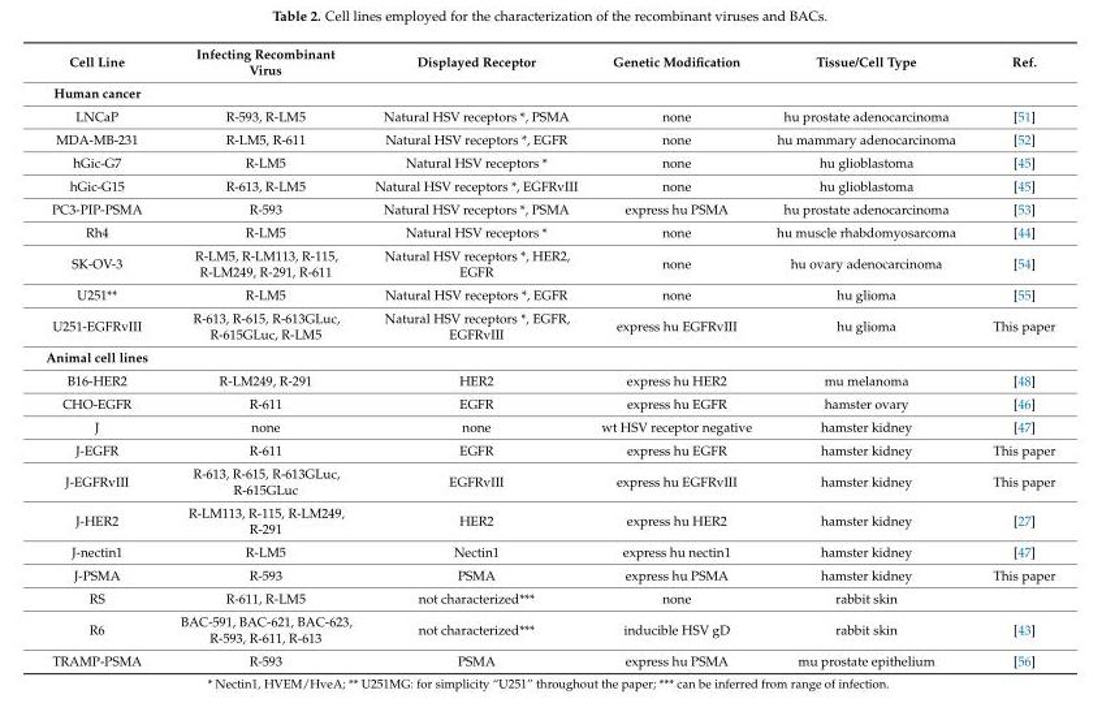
<table><thead><tr><td>Cell Line</td><td>Infecting Recombinant Virus</td><td>Displayed Receptor</td><td>Genetic Modification</td><td>Tissue/Cell Type</td><td>Ref.</td></tr></thead><tbody><tr><td colspan="6">Human cancer</td></tr><tr><td>LNCaP</td><td>R-593, R-LM5</td><td>Natural HSV receptors *, PSMA</td><td>none</td><td>hu prostate adenocarcinoma</td><td>[51]</td></tr><tr><td>MDA-MB-231</td><td>R-LM5, R-611</td><td>Natural HSV receptors *, EGFR</td><td>none</td><td>hu mammary adenocarcinoma</td><td>[52]</td></tr><tr><td>hGic-G7</td><td>R-LM5</td><td>Natural HSV receptors *</td><td>none</td><td>hu glioblastoma</td><td>[45]</td></tr><tr><td>hGic-G15</td><td>R-613, R-LM5</td><td>Natural HSV receptors *, EGFRvIII</td><td>none</td><td>hu glioblastoma</td><td>[45]</td></tr><tr><td>PC3-PIP-PSMA</td><td>R-593</td><td>Natural HSV receptors *, PSMA</td><td>express hu PSMA</td><td>hu prostate adenocarcinoma</td><td>[53]</td></tr><tr><td>Rh4</td><td>R-LM5</td><td>Natural HSV receptors *</td><td>none</td><td>hu muscle rhabdomyosarcoma</td><td>[44]</td></tr><tr><td>SK-OV-3</td><td>R-LM5, R-LM113, R-115, R-LM249, R-291, R-611</td><td>Natural HSV receptors *, HER2, EGFR</td><td>none</td><td>hu ovary adenocarcinoma</td><td>[54]</td></tr><tr><td>U251**</td><td>R-LM5</td><td>Natural HSV receptors *, EGFR</td><td>none</td><td>hu glioma</td><td>[55]</td></tr><tr><td>U251-EGFRvIII</td><td>R-613, R-615, R-613GLuc, R-615GLuc, R-LM5</td><td>Natural HSV receptors *, EGFR, EGFRvIII</td><td>express hu EGFRvIII</td><td>hu glioma</td><td>This paper</td></tr><tr><td colspan="6">Animal cell lines</td></tr><tr><td>B16-HER2</td><td>R-LM249, R-291</td><td>HER2</td><td>express hu HER2</td><td>mu melanoma</td><td>[48]</td></tr><tr><td>CHO-EGFR</td><td>R-611</td><td>EGFR</td><td>express hu EGFR</td><td>hamster ovary</td><td>[46]</td></tr><tr><td>J</td><td>none</td><td>none</td><td>wt HSV receptor negative</td><td>hamster kidney</td><td>[47]</td></tr><tr><td>J-EGFR</td><td>R-611</td><td>EGFR</td><td>express hu EGFR</td><td>hamster kidney</td><td>This paper</td></tr><tr><td>J-EGFRvIII</td><td>R-613, R-615, R-613GLuc, R-615GLuc</td><td>EGFRvIII</td><td>express hu EGFRvIII</td><td>hamster kidney</td><td>This paper</td></tr><tr><td>J-HER2</td><td>R-LM113, R-115, R-LM249, R-291</td><td>HER2</td><td>express hu HER2</td><td>hamster kidney</td><td>[27]</td></tr><tr><td>J-nectin1</td><td>R-LM5</td><td>Nectin1</td><td>express hu nectin1</td><td>hamster kidney</td><td>[47]</td></tr><tr><td>J-PSMA</td><td>R-593</td><td>PSMA</td><td>express hu PSMA</td><td>hamster kidney</td><td>This paper</td></tr><tr><td>RS</td><td>R-611, R-LM5</td><td>not characterized***</td><td>none</td><td>rabbit skin</td><td></td></tr><tr><td>R6</td><td>BAC-591, BAC-621, BAC-623, R-593, R-611, R-613</td><td>not characterized***</td><td>inducible HSV gD</td><td>rabbit skin</td><td>[43]</td></tr><tr><td>TRAMP-PSMA</td><td>R-593</td><td>PSMA</td><td>express hu PSMA</td><td>mu prostate epithelium</td><td>[56]</td></tr></tbody></table>